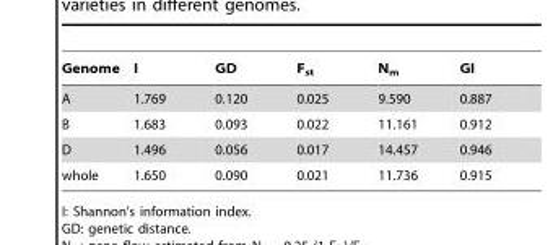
<table><thead><tr><td>Genome</td><td>I</td><td>GD</td><td>F<sub>st</sub></td><td>N<sub>m</sub></td><td>GI</td></tr></thead><tbody><tr><td>A</td><td>1.769</td><td>0.120</td><td>0.025</td><td>9.590</td><td>0.887</td></tr><tr><td>B</td><td>1.683</td><td>0.093</td><td>0.022</td><td>11.161</td><td>0.912</td></tr><tr><td>D</td><td>1.496</td><td>0.056</td><td>0.017</td><td>14.457</td><td>0.946</td></tr><tr><td>whole</td><td>1.650</td><td>0.090</td><td>0.021</td><td>11.736</td><td>0.915</td></tr></tbody></table>